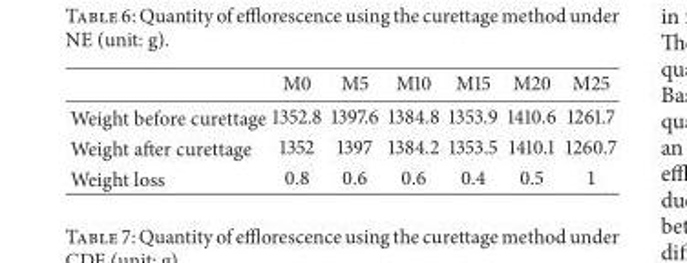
<table><thead><tr><td></td><td>M0</td><td>M5</td><td>M10</td><td>M15</td><td>M20</td><td>M25</td></tr></thead><tbody><tr><td>Weight before curettage</td><td>1352.8</td><td>1397.6</td><td>1384.8</td><td>1353.9</td><td>1410.6</td><td>1261.7</td></tr><tr><td>Weight after curettage</td><td>1352</td><td>1397</td><td>1384.2</td><td>1353.5</td><td>1410.1</td><td>1260.7</td></tr><tr><td>Weight loss</td><td>0.8</td><td>0.6</td><td>0.6</td><td>0.4</td><td>0.5</td><td>1</td></tr></tbody></table>